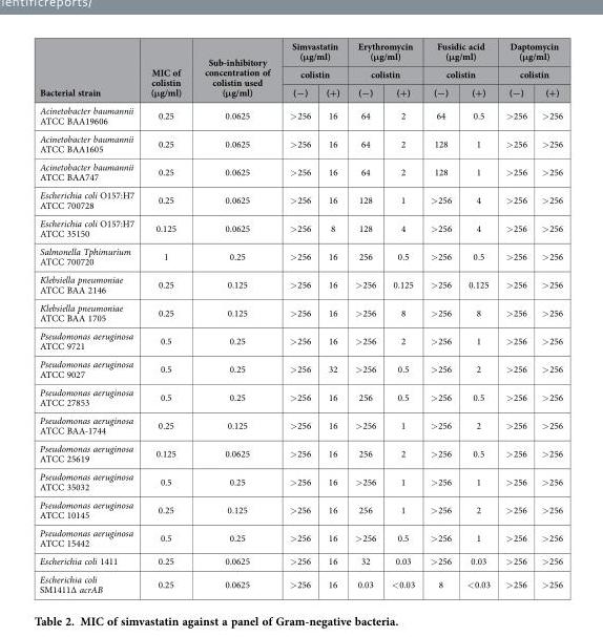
<table><thead><tr><td rowspan="3">Bacterial strain</td><td rowspan="3">MIC of colistin (μg/ml)</td><td rowspan="3">Sub-inhibitory concentration of colistin used (μg/ml)</td><td rowspan="2" colspan="2">Simvastatin (μg/ml) colistin</td><td rowspan="2" colspan="2">Erythromycin (μg/ml) colistin</td><td rowspan="2" colspan="2">Fusidic acid (μg/ml) colistin</td><td rowspan="2" colspan="2">Daptomycin (μg/ml) colistin</td></tr><tr></tr><tr><td>(−)</td><td>(+)</td><td>(−)</td><td>(+)</td><td>(−)</td><td>(+)</td><td>(−)</td><td>(+)</td></tr></thead><tbody><tr><td>Acinetobacter baumannii ATCC BAA19606</td><td>0.25</td><td>0.0625</td><td>&gt; 256</td><td>16</td><td>64</td><td>2</td><td>64</td><td>0.5</td><td>&gt; 256</td><td>&gt; 256</td></tr><tr><td>Acinetobacter baumannii ATCC BAA1605</td><td>0.25</td><td>0.0625</td><td>&gt; 256</td><td>16</td><td>64</td><td>2</td><td>128</td><td>1</td><td>&gt; 256</td><td>&gt; 256</td></tr><tr><td>Acinetobacter baumannii ATCC BAA747</td><td>0.25</td><td>0.0625</td><td>&gt; 256</td><td>16</td><td>64</td><td>2</td><td>128</td><td>1</td><td>&gt; 256</td><td>&gt; 256</td></tr><tr><td>Escherichia coli O157:H7 ATCC 700728</td><td>0.25</td><td>0.0625</td><td>&gt; 256</td><td>16</td><td>128</td><td>1</td><td>&gt; 256</td><td>4</td><td>&gt; 256</td><td>&gt; 256</td></tr><tr><td>Escherichia coli O157:H7 ATCC 35150</td><td>0.125</td><td>0.0625</td><td>&gt; 256</td><td>8</td><td>128</td><td>4</td><td>&gt; 256</td><td>4</td><td>&gt; 256</td><td>&gt; 256</td></tr><tr><td>Salmonella Tphimurium ATCC 700720</td><td>1</td><td>0.25</td><td>&gt; 256</td><td>16</td><td>256</td><td>0.5</td><td>&gt; 256</td><td>0.5</td><td>&gt; 256</td><td>&gt; 256</td></tr><tr><td>Klebsiella pneumoniae ATCC BAA 2146</td><td>0.25</td><td>0.125</td><td>&gt; 256</td><td>16</td><td>&gt; 256</td><td>0.125</td><td>&gt; 256</td><td>0.125</td><td>&gt; 256</td><td>&gt; 256</td></tr><tr><td>Klebsiella pneumoniae ATCC BAA 1705</td><td>0.25</td><td>0.125</td><td>&gt; 256</td><td>16</td><td>&gt; 256</td><td>8</td><td>&gt; 256</td><td>8</td><td>&gt; 256</td><td>&gt; 256</td></tr><tr><td>Pseudomonas aeruginosa ATCC 9721</td><td>0.5</td><td>0.25</td><td>&gt; 256</td><td>16</td><td>&gt; 256</td><td>2</td><td>&gt; 256</td><td>1</td><td>&gt; 256</td><td>&gt; 256</td></tr><tr><td>Pseudomonas aeruginosa ATCC 9027</td><td>0.5</td><td>0.25</td><td>&gt; 256</td><td>32</td><td>&gt; 256</td><td>0.5</td><td>&gt; 256</td><td>2</td><td>&gt; 256</td><td>&gt; 256</td></tr><tr><td>Pseudomonas aeruginosa ATCC 27853</td><td>0.5</td><td>0.25</td><td>&gt; 256</td><td>16</td><td>256</td><td>0.5</td><td>&gt; 256</td><td>0.5</td><td>&gt; 256</td><td>&gt; 256</td></tr><tr><td>Pseudomonas aeruginosa ATCC BAA-1744</td><td>0.25</td><td>0.125</td><td>&gt; 256</td><td>16</td><td>&gt; 256</td><td>1</td><td>&gt; 256</td><td>2</td><td>&gt; 256</td><td>&gt; 256</td></tr><tr><td>Pseudomonas aeruginosa ATCC 25619</td><td>0.125</td><td>0.0625</td><td>&gt; 256</td><td>16</td><td>256</td><td>2</td><td>&gt; 256</td><td>0.5</td><td>&gt; 256</td><td>&gt; 256</td></tr><tr><td>Pseudomonas aeruginosa ATCC 35032</td><td>0.5</td><td>0.25</td><td>&gt; 256</td><td>16</td><td>&gt; 256</td><td>1</td><td>&gt; 256</td><td>1</td><td>&gt; 256</td><td>&gt; 256</td></tr><tr><td>Pseudomonas aeruginosa ATCC 10145</td><td>0.25</td><td>0.125</td><td>&gt; 256</td><td>16</td><td>256</td><td>1</td><td>&gt; 256</td><td>2</td><td>&gt; 256</td><td>&gt; 256</td></tr><tr><td>Pseudomonas aeruginosa ATCC 15442</td><td>0.5</td><td>0.25</td><td>&gt; 256</td><td>16</td><td>&gt; 256</td><td>0.5</td><td>&gt; 256</td><td>1</td><td>&gt; 256</td><td>&gt; 256</td></tr><tr><td>Escherichia coli 1411</td><td>0.25</td><td>0.0625</td><td>&gt; 256</td><td>16</td><td>32</td><td>0.03</td><td>&gt; 256</td><td>0.03</td><td>&gt; 256</td><td>&gt; 256</td></tr><tr><td>Escherichia coli SM1411∆ acrAB</td><td>0.25</td><td>0.0625</td><td>&gt; 256</td><td>16</td><td>0.03</td><td>&lt; 0.03</td><td>8</td><td>&lt; 0.03</td><td>&gt; 256</td><td>&gt; 256</td></tr></tbody></table>